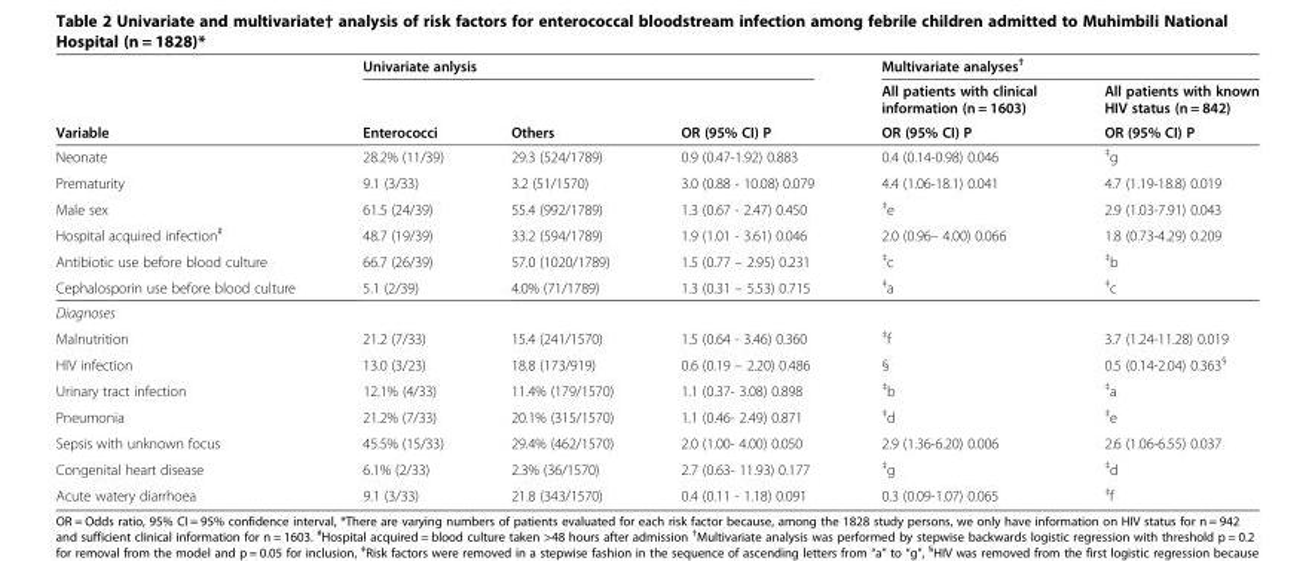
<table><thead><tr><td rowspan="3">Variable</td><td colspan="3">Univariate anlysis</td><td colspan="2">Multivariate analyses<sup>†</sup></td></tr><tr><td rowspan="2">Enterococci</td><td rowspan="2">Others</td><td rowspan="2">OR (95% CI) P</td><td rowspan="2">All patients with clinical information (n = 1603) OR (95% CI) P</td><td rowspan="2">All patients with known HIV status (n = 842) OR (95% CI) P</td></tr><tr></tr></thead><tbody><tr><td>Neonate</td><td>28.2% (11/39)</td><td>29.3 (524/1789)</td><td>0.9 (0.47-1.92) 0.883</td><td>0.4 (0.14-0.98) 0.046</td><td><sup>‡</sup>g</td></tr><tr><td>Prematurity</td><td>9.1 (3/33)</td><td>3.2 (51/1570)</td><td>3.0 (0.88 - 10.08) 0.079</td><td>4.4 (1.06-18.1) 0.041</td><td>4.7 (1.19-18.8) 0.019</td></tr><tr><td>Male sex</td><td>61.5 (24/39)</td><td>55.4 (992/1789)</td><td>1.3 (0.67 - 2.47) 0.450</td><td><sup>‡</sup>e</td><td>2.9 (1.03-7.91) 0.043</td></tr><tr><td>Hospital acquired infection<sup>#</sup></td><td>48.7 (19/39)</td><td>33.2 (594/1789)</td><td>1.9 (1.01 - 3.61) 0.046</td><td>2.0 (0.96– 4.00) 0.066</td><td>1.8 (0.73-4.29) 0.209</td></tr><tr><td>Antibiotic use before blood culture</td><td>66.7 (26/39)</td><td>57.0 (1020/1789)</td><td>1.5 (0.77 – 2.95) 0.231</td><td><sup>‡</sup>c</td><td><sup>‡</sup>b</td></tr><tr><td>Cephalosporin use before blood culture</td><td>5.1 (2/39)</td><td>4.0% (71/1789)</td><td>1.3 (0.31 – 5.53) 0.715</td><td><sup>‡</sup>a</td><td><sup>‡</sup>c</td></tr><tr><td colspan="6">Diagnoses</td></tr><tr><td>Malnutrition</td><td>21.2 (7/33)</td><td>15.4 (241/1570)</td><td>1.5 (0.64 - 3.46) 0.360</td><td><sup>‡</sup>f</td><td>3.7 (1.24-11.28) 0.019</td></tr><tr><td>HIV infection</td><td>13.0 (3/23)</td><td>18.8 (173/919)</td><td>0.6 (0.19 – 2.20) 0.486</td><td>§</td><td>0.5 (0.14-2.04) 0.363<sup>§</sup></td></tr><tr><td>Urinary tract infection</td><td>12.1% (4/33)</td><td>11.4% (179/1570)</td><td>1.1 (0.37- 3.08) 0.898</td><td><sup>‡</sup>b</td><td><sup>‡</sup>a</td></tr><tr><td>Pneumonia</td><td>21.2% (7/33)</td><td>20.1% (315/1570)</td><td>1.1 (0.46- 2.49) 0.871</td><td><sup>‡</sup>d</td><td><sup>‡</sup>e</td></tr><tr><td>Sepsis with unknown focus</td><td>45.5% (15/33)</td><td>29.4% (462/1570)</td><td>2.0 (1.00- 4.00) 0.050</td><td>2.9 (1.36-6.20) 0.006</td><td>2.6 (1.06-6.55) 0.037</td></tr><tr><td>Congenital heart disease</td><td>6.1% (2/33)</td><td>2.3% (36/1570)</td><td>2.7 (0.63- 11.93) 0.177</td><td><sup>‡</sup>g</td><td><sup>‡</sup>d</td></tr><tr><td>Acute watery diarrhoea</td><td>9.1 (3/33)</td><td>21.8 (343/1570)</td><td>0.4 (0.11 - 1.18) 0.091</td><td>0.3 (0.09-1.07) 0.065</td><td><sup>‡</sup>f</td></tr></tbody></table>